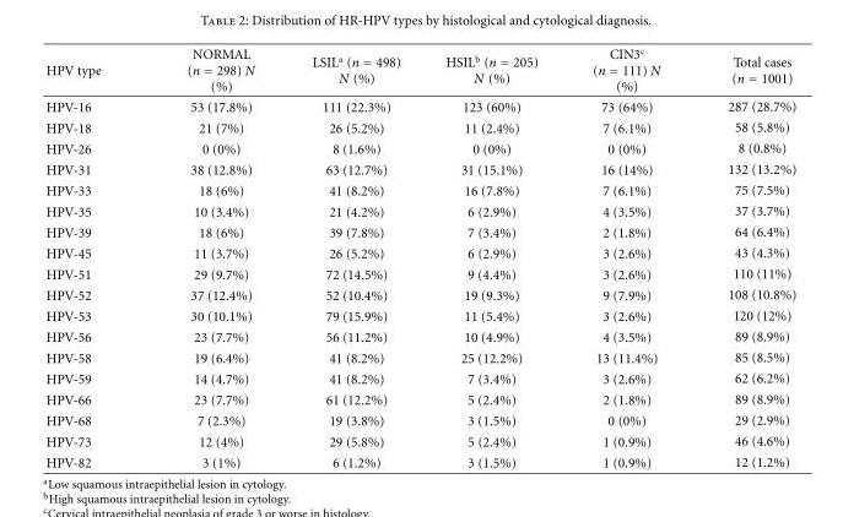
<table><thead><tr><td>HPV type</td><td>NORMAL (n = 298) N (%)</td><td>LSIL<sup>a</sup> (n = 498) N (%)</td><td>HSIL<sup>b</sup> (n = 205) N (%)</td><td>CIN3<sup>c</sup> (n = 111) N (%)</td><td>Total cases (n = 1001)</td></tr></thead><tbody><tr><td>HPV-16</td><td>53 (17.8%)</td><td>111 (22.3%)</td><td>123 (60%)</td><td>73 (64%)</td><td>287 (28.7%)</td></tr><tr><td>HPV-18</td><td>21 (7%)</td><td>26 (5.2%)</td><td>11 (2.4%)</td><td>7 (6.1%)</td><td>58 (5.8%)</td></tr><tr><td>HPV-26</td><td>0 (0%)</td><td>8 (1.6%)</td><td>0 (0%)</td><td>0 (0%)</td><td>8 (0.8%)</td></tr><tr><td>HPV-31</td><td>38 (12.8%)</td><td>63 (12.7%)</td><td>31 (15.1%)</td><td>16 (14%)</td><td>132 (13.2%)</td></tr><tr><td>HPV-33</td><td>18 (6%)</td><td>41 (8.2%)</td><td>16 (7.8%)</td><td>7 (6.1%)</td><td>75 (7.5%)</td></tr><tr><td>HPV-35</td><td>10 (3.4%)</td><td>21 (4.2%)</td><td>6 (2.9%)</td><td>4 (3.5%)</td><td>37 (3.7%)</td></tr><tr><td>HPV-39</td><td>18 (6%)</td><td>39 (7.8%)</td><td>7 (3.4%)</td><td>2 (1.8%)</td><td>64 (6.4%)</td></tr><tr><td>HPV-45</td><td>11 (3.7%)</td><td>26 (5.2%)</td><td>6 (2.9%)</td><td>3 (2.6%)</td><td>43 (4.3%)</td></tr><tr><td>HPV-51</td><td>29 (9.7%)</td><td>72 (14.5%)</td><td>9 (4.4%)</td><td>3 (2.6%)</td><td>110 (11%)</td></tr><tr><td>HPV-52</td><td>37 (12.4%)</td><td>52 (10.4%)</td><td>19 (9.3%)</td><td>9 (7.9%)</td><td>108 (10.8%)</td></tr><tr><td>HPV-53</td><td>30 (10.1%)</td><td>79 (15.9%)</td><td>11 (5.4%)</td><td>3 (2.6%)</td><td>120 (12%)</td></tr><tr><td>HPV-56</td><td>23 (7.7%)</td><td>56 (11.2%)</td><td>10 (4.9%)</td><td>4 (3.5%)</td><td>89 (8.9%)</td></tr><tr><td>HPV-58</td><td>19 (6.4%)</td><td>41 (8.2%)</td><td>25 (12.2%)</td><td>13 (11.4%)</td><td>85 (8.5%)</td></tr><tr><td>HPV-59</td><td>14 (4.7%)</td><td>41 (8.2%)</td><td>7 (3.4%)</td><td>3 (2.6%)</td><td>62 (6.2%)</td></tr><tr><td>HPV-66</td><td>23 (7.7%)</td><td>61 (12.2%)</td><td>5 (2.4%)</td><td>2 (1.8%)</td><td>89 (8.9%)</td></tr><tr><td>HPV-68</td><td>7 (2.3%)</td><td>19 (3.8%)</td><td>3 (1.5%)</td><td>0 (0%)</td><td>29 (2.9%)</td></tr><tr><td>HPV-73</td><td>12 (4%)</td><td>29 (5.8%)</td><td>5 (2.4%)</td><td>1 (0.9%)</td><td>46 (4.6%)</td></tr><tr><td>HPV-82</td><td>3 (1%)</td><td>6 (1.2%)</td><td>3 (1.5%)</td><td>1 (0.9%)</td><td>12 (1.2%)</td></tr></tbody></table>